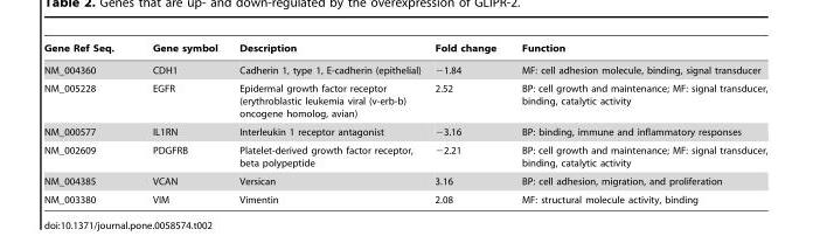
<table><thead><tr><td>Gene Ref Seq.</td><td>Gene symbol</td><td>Description</td><td>Fold change</td><td>Function</td></tr></thead><tbody><tr><td>NM_004360</td><td>CDH1</td><td>Cadherin 1, type 1, E-cadherin (epithelial)</td><td>−1.84</td><td>MF: cell adhesion molecule, binding, signal transducer</td></tr><tr><td>NM_005228</td><td>EGFR</td><td>Epidermal growth factor receptor (erythroblastic leukemia viral (v-erb-b) oncogene homolog, avian)</td><td>2.52</td><td>BP: cell growth and maintenance; MF: signal transducer, binding, catalytic activity</td></tr><tr><td>NM_000577</td><td>IL1RN</td><td>Interleukin 1 receptor antagonist</td><td>−3.16</td><td>BP: binding, immune and inflammatory responses</td></tr><tr><td>NM_002609</td><td>PDGFRB</td><td>Platelet-derived growth factor receptor, beta polypeptide</td><td>−2.21</td><td>BP: cell growth and maintenance; MF: signal transducer, binding, catalytic activity</td></tr><tr><td>NM_004385</td><td>VCAN</td><td>Versican</td><td>3.16</td><td>BP: cell adhesion, migration, and proliferation</td></tr><tr><td>NM_003380</td><td>VIM</td><td>Vimentin</td><td>2.08</td><td>MF: structural molecule activity, binding</td></tr></tbody></table>